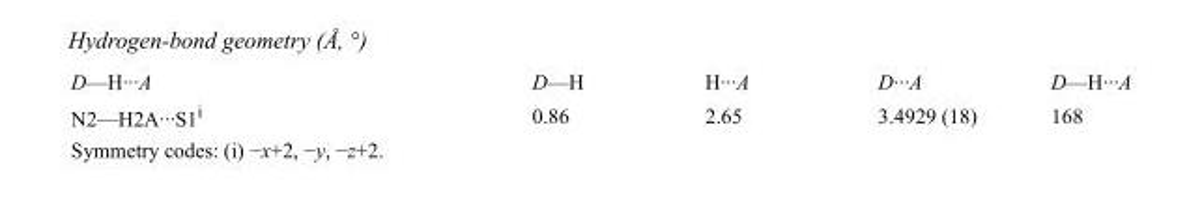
<table><tbody><tr><td>D—H···A</td><td>D—H</td><td>H···A</td><td>D···A</td><td>D—H···A</td></tr><tr><td>N2—H2A···S1<sup>i</sup></td><td>0.86</td><td>2.65</td><td>3.4929 (18)</td><td>168</td></tr></tbody></table>